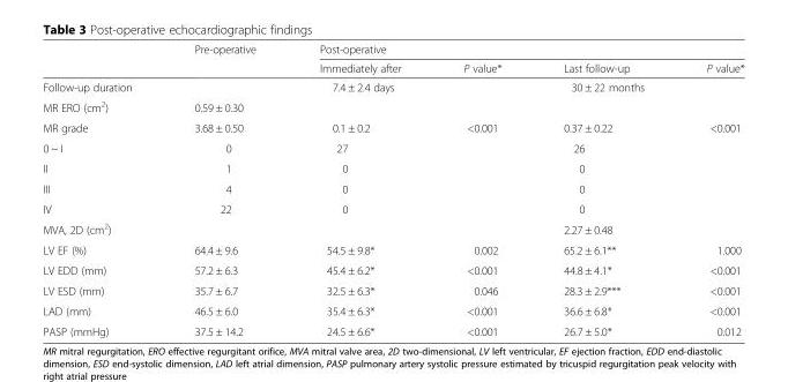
<table><thead><tr><td rowspan="2"></td><td rowspan="2">Pre-operative</td><td colspan="4">Post-operative</td></tr><tr><td>Immediately after</td><td>P value*</td><td>Last follow-up</td><td>P value*</td></tr></thead><tbody><tr><td>Follow-up duration</td><td></td><td>7.4 ± 2.4 days</td><td></td><td>30 ± 22 months</td><td></td></tr><tr><td>MR ERO (cm<sup>2</sup>)</td><td>0.59 ± 0.30</td><td></td><td></td><td></td><td></td></tr><tr><td>MR grade</td><td>3.68 ± 0.50</td><td>0.1 ± 0.2</td><td>&lt;0.001</td><td>0.37 ± 0.22</td><td>&lt;0.001</td></tr><tr><td>0 ~ I</td><td>0</td><td>27</td><td></td><td>26</td><td></td></tr><tr><td>II</td><td>1</td><td>0</td><td></td><td>0</td><td></td></tr><tr><td>III</td><td>4</td><td>0</td><td></td><td>0</td><td></td></tr><tr><td>IV</td><td>22</td><td>0</td><td></td><td>0</td><td></td></tr><tr><td>MVA, 2D (cm<sup>2</sup>)</td><td></td><td></td><td></td><td>2.27 ± 0.48</td><td></td></tr><tr><td>LV EF (%)</td><td>64.4 ± 9.6</td><td>54.5 ± 9.8*</td><td>0.002</td><td>65.2 ± 6.1**</td><td>1.000</td></tr><tr><td>LV EDD (mm)</td><td>57.2 ± 6.3</td><td>45.4 ± 6.2*</td><td>&lt;0.001</td><td>44.8 ± 4.1*</td><td>&lt;0.001</td></tr><tr><td>LV ESD (mm)</td><td>35.7 ± 6.7</td><td>32.5 ± 6.3*</td><td>0.046</td><td>28.3 ± 2.9***</td><td>&lt;0.001</td></tr><tr><td>LAD (mm)</td><td>46.5 ± 6.0</td><td>35.4 ± 6.3*</td><td>&lt;0.001</td><td>36.6 ± 6.8*</td><td>&lt;0.001</td></tr><tr><td>PASP (mmHg)</td><td>37.5 ± 14.2</td><td>24.5 ± 6.6*</td><td>&lt;0.001</td><td>26.7 ± 5.0*</td><td>0.012</td></tr></tbody></table>